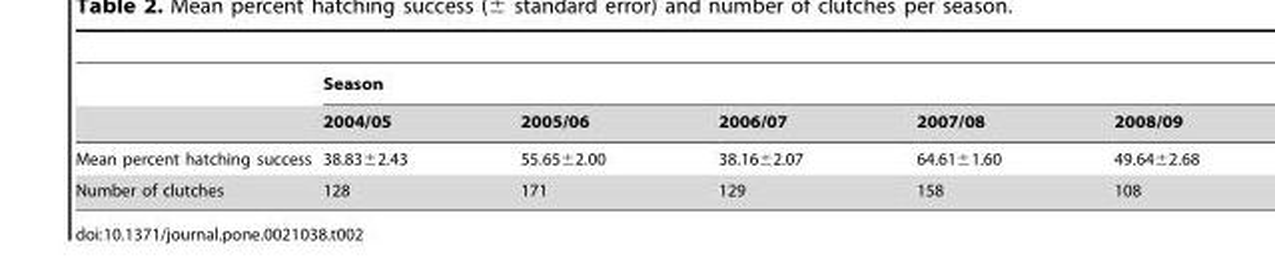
<table><thead><tr><td rowspan="2"></td><td colspan="5">Season</td></tr><tr><td>2004/05</td><td>2005/06</td><td>2006/07</td><td>2007/08</td><td>2008/09</td></tr></thead><tbody><tr><td>Mean percent hatching success</td><td>38.83±2.43</td><td>55.65±2.00</td><td>38.16±2.07</td><td>64.61±1.60</td><td>49.64±2.68</td></tr><tr><td>Number of clutches</td><td>128</td><td>171</td><td>129</td><td>158</td><td>108</td></tr></tbody></table>